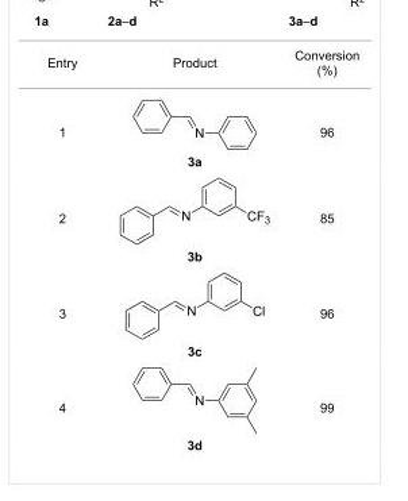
<table><tbody><tr><td>Entry</td><td>Product</td><td>Conversion (%)</td></tr><tr><td>1</td><td>3a</td><td>96</td></tr><tr><td>2</td><td>3b</td><td>85</td></tr><tr><td>3</td><td>3c</td><td>96</td></tr><tr><td>4</td><td>3d</td><td>99</td></tr></tbody></table>